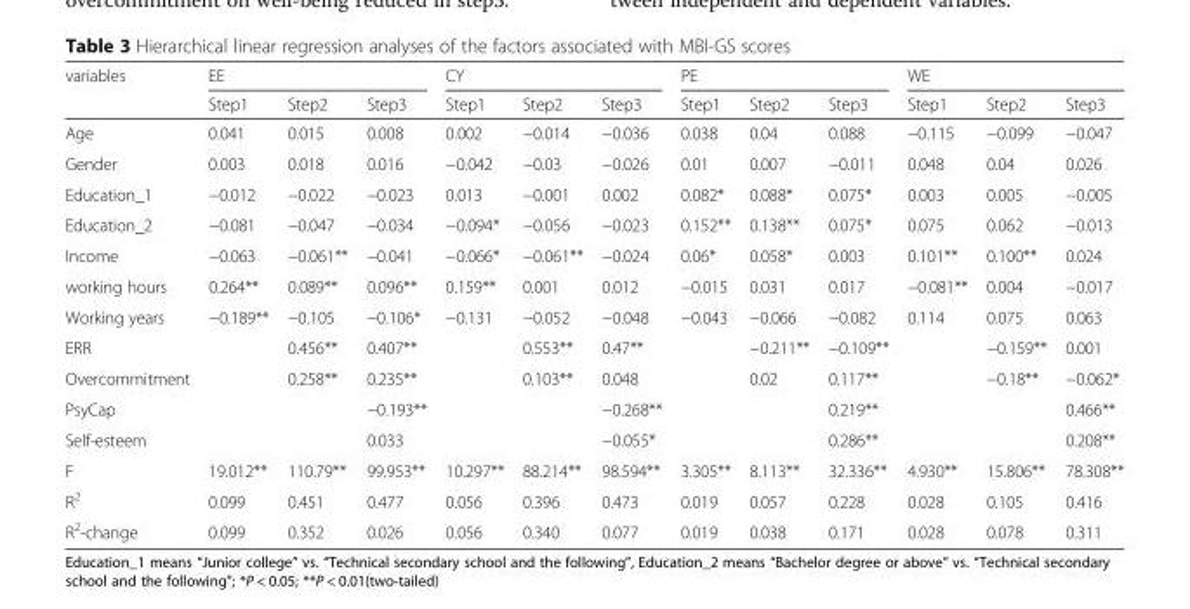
<table><thead><tr><td rowspan="2">variables</td><td colspan="3">EE</td><td colspan="3">CY</td><td colspan="3">PE</td><td colspan="3">WE</td></tr><tr><td>Step1</td><td>Step2</td><td>Step3</td><td>Step1</td><td>Step2</td><td>Step3</td><td>Step1</td><td>Step2</td><td>Step3</td><td>Step1</td><td>Step2</td><td>Step3</td></tr></thead><tbody><tr><td>Age</td><td>0.041</td><td>0.015</td><td>0.008</td><td>0.002</td><td>−0.014</td><td>−0.036</td><td>0.038</td><td>0.04</td><td>0.088</td><td>−0.115</td><td>−0.099</td><td>−0.047</td></tr><tr><td>Gender</td><td>0.003</td><td>0.018</td><td>0.016</td><td>−0.042</td><td>−0.03</td><td>−0.026</td><td>0.01</td><td>0.007</td><td>−0.011</td><td>0.048</td><td>0.04</td><td>0.026</td></tr><tr><td>Education_1</td><td>−0.012</td><td>−0.022</td><td>−0.023</td><td>0.013</td><td>−0.001</td><td>0.002</td><td>0.082*</td><td>0.088*</td><td>0.075*</td><td>0.003</td><td>0.005</td><td>−0.005</td></tr><tr><td>Education_2</td><td>−0.081</td><td>−0.047</td><td>−0.034</td><td>−0.094*</td><td>−0.056</td><td>−0.023</td><td>0.152**</td><td>0.138**</td><td>0.075*</td><td>0.075</td><td>0.062</td><td>−0.013</td></tr><tr><td>Income</td><td>−0.063</td><td>−0.061**</td><td>−0.041</td><td>−0.066*</td><td>−0.061**</td><td>−0.024</td><td>0.06*</td><td>0.058*</td><td>0.003</td><td>0.101**</td><td>0.100**</td><td>0.024</td></tr><tr><td>working hours</td><td>0.264**</td><td>0.089**</td><td>0.096**</td><td>0.159**</td><td>0.001</td><td>0.012</td><td>−0.015</td><td>0.031</td><td>0.017</td><td>−0.081**</td><td>0.004</td><td>−0.017</td></tr><tr><td>Working years</td><td>−0.189**</td><td>−0.105</td><td>−0.106*</td><td>−0.131</td><td>−0.052</td><td>−0.048</td><td>−0.043</td><td>−0.066</td><td>−0.082</td><td>0.114</td><td>0.075</td><td>0.063</td></tr><tr><td>ERR</td><td></td><td>0.456**</td><td>0.407**</td><td></td><td>0.553**</td><td>0.47**</td><td></td><td>−0.211**</td><td>−0.109**</td><td></td><td>−0.159**</td><td>0.001</td></tr><tr><td>Overcommitment</td><td></td><td>0.258**</td><td>0.235**</td><td></td><td>0.103**</td><td>0.048</td><td></td><td>0.02</td><td>0.117**</td><td></td><td>−0.18**</td><td>−0.062*</td></tr><tr><td>PsyCap</td><td></td><td></td><td>−0.193**</td><td></td><td></td><td>−0.268**</td><td></td><td></td><td>0.219**</td><td></td><td></td><td>0.466**</td></tr><tr><td>Self-esteem</td><td></td><td></td><td>0.033</td><td></td><td></td><td>−0.055*</td><td></td><td></td><td>0.286**</td><td></td><td></td><td>0.208**</td></tr><tr><td>F</td><td>19.012**</td><td>110.79**</td><td>99.953**</td><td>10.297**</td><td>88.214**</td><td>98.594**</td><td>3.305**</td><td>8.113**</td><td>32.336**</td><td>4.930**</td><td>15.806**</td><td>78.308**</td></tr><tr><td>R<sup>2</sup></td><td>0.099</td><td>0.451</td><td>0.477</td><td>0.056</td><td>0.396</td><td>0.473</td><td>0.019</td><td>0.057</td><td>0.228</td><td>0.028</td><td>0.105</td><td>0.416</td></tr><tr><td>R<sup>2</sup>-change</td><td>0.099</td><td>0.352</td><td>0.026</td><td>0.056</td><td>0.340</td><td>0.077</td><td>0.019</td><td>0.038</td><td>0.171</td><td>0.028</td><td>0.078</td><td>0.311</td></tr></tbody></table>